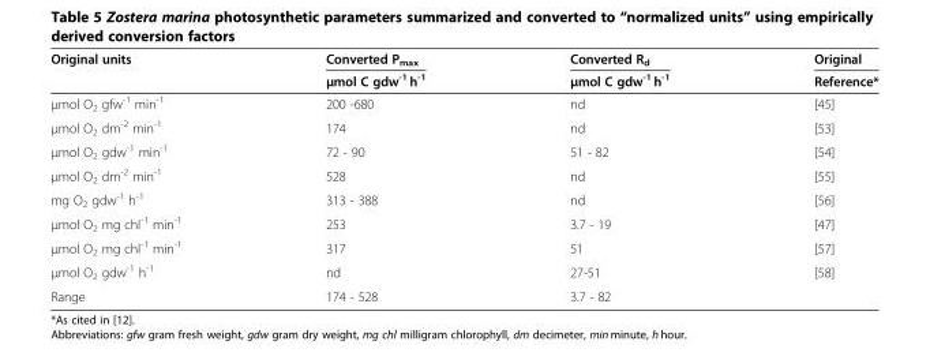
<table><thead><tr><td rowspan="2">Original units</td><td rowspan="2">Converted P<sub>max</sub> μmol C gdw<sup>-1</sup> h<sup>-1</sup></td><td rowspan="2">Converted R<sub>d</sub> μmol C gdw<sup>-1</sup> h<sup>-1</sup></td><td rowspan="2">Original Reference*</td></tr><tr></tr></thead><tbody><tr><td>μmol O<sub>2</sub> gfw<sup>-1</sup> min<sup>-1</sup></td><td>200 -680</td><td>nd</td><td>[45]</td></tr><tr><td>μmol O<sub>2</sub> dm<sup>-2</sup> min<sup>-1</sup></td><td>174</td><td>nd</td><td>[53]</td></tr><tr><td>μmol O<sub>2</sub> gdw<sup>-1</sup> min<sup>-1</sup></td><td>72 - 90</td><td>51 - 82</td><td>[54]</td></tr><tr><td>μmol O<sub>2</sub> dm<sup>-2</sup> min<sup>-1</sup></td><td>528</td><td>nd</td><td>[55]</td></tr><tr><td>mg O<sub>2</sub> gdw<sup>-1</sup> h<sup>-1</sup></td><td>313 - 388</td><td>nd</td><td>[56]</td></tr><tr><td>μmol O<sub>2</sub> mg chl<sup>-1</sup> min<sup>-1</sup></td><td>253</td><td>3.7 - 19</td><td>[47]</td></tr><tr><td>μmol O<sub>2</sub> mg chl<sup>-1</sup> min<sup>-1</sup></td><td>317</td><td>51</td><td>[57]</td></tr><tr><td>μmol O<sub>2</sub> gdw<sup>-1</sup> h<sup>-1</sup></td><td>nd</td><td>27-51</td><td>[58]</td></tr><tr><td>Range</td><td>174 - 528</td><td>3.7 - 82</td><td></td></tr></tbody></table>